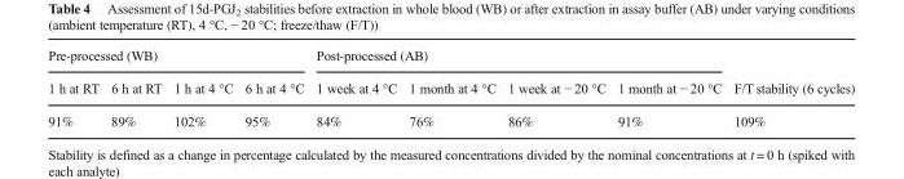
<table><thead><tr><td colspan="4">Pre-processed (WB)</td><td colspan="4">Post-processed (AB)</td><td rowspan="2">F/T stability (6 cycles)</td></tr><tr><td>1 h at RT</td><td>6 h at RT</td><td>1 h at 4 °C</td><td>6 h at 4 °C</td><td>1 week at 4 °C</td><td>1 month at 4 °C</td><td>1 week at − 20 °C</td><td>1 month at − 20 °C</td></tr></thead><tbody><tr><td>91%</td><td>89%</td><td>102%</td><td>95%</td><td>84%</td><td>76%</td><td>86%</td><td>91%</td><td>109%</td></tr></tbody></table>